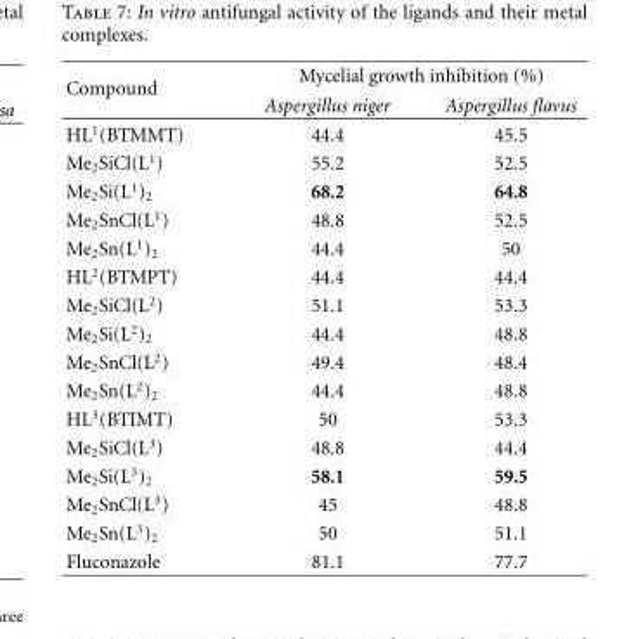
<table><thead><tr><td rowspan="2">Compound</td><td colspan="2">Mycelial growth inhibition (%)</td></tr><tr><td>Aspergillus niger</td><td>Aspergillus flavus</td></tr></thead><tbody><tr><td>HL<sup>1</sup>(BTMMT)</td><td>44.4</td><td>45.5</td></tr><tr><td>Me<sub>2</sub>SiCl(L<sup>1</sup>)</td><td>55.2</td><td>52.5</td></tr><tr><td>Me<sub>2</sub>Si(L<sup>1</sup>)<sub>2</sub></td><td>68.2</td><td>64.8</td></tr><tr><td>Me<sub>2</sub>SnCl(L<sup>1</sup>)</td><td>48.8</td><td>52.5</td></tr><tr><td>Me<sub>2</sub>Sn(L<sup>1</sup>)<sub>2</sub></td><td>44.4</td><td>50</td></tr><tr><td>HL<sup>2</sup>(BTMPT)</td><td>44.4</td><td>44.4</td></tr><tr><td>Me<sub>2</sub>SiCl(L<sup>2</sup>)</td><td>51.1</td><td>53.3</td></tr><tr><td>Me<sub>2</sub>Si(L<sup>2</sup>)<sub>2</sub></td><td>44.4</td><td>48.8</td></tr><tr><td>Me<sub>2</sub>SnCl(L<sup>2</sup>)</td><td>49.4</td><td>48.4</td></tr><tr><td>Me<sub>2</sub>Sn(L<sup>2</sup>)<sub>2</sub></td><td>44.4</td><td>48.8</td></tr><tr><td>HL<sup>3</sup>(BTIMT)</td><td>50</td><td>53.3</td></tr><tr><td>Me<sub>2</sub>SiCl(L<sup>3</sup>)</td><td>48.8</td><td>44.4</td></tr><tr><td>Me<sub>2</sub>Si(L<sup>3</sup>)<sub>2</sub></td><td>58.1</td><td>59.5</td></tr><tr><td>Me<sub>2</sub>SnCl(L<sup>3</sup>)</td><td>45</td><td>48.8</td></tr><tr><td>Me<sub>2</sub>Sn(L<sup>3</sup>)<sub>2</sub></td><td>50</td><td>51.1</td></tr><tr><td>Fluconazole</td><td>81.1</td><td>77.7</td></tr></tbody></table>